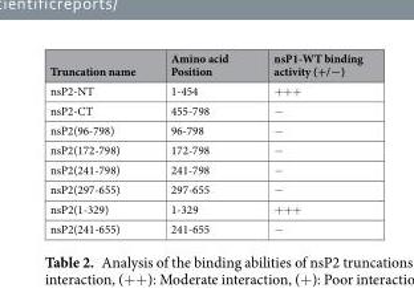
<table><thead><tr><td>Truncation name</td><td>Amino acid Position</td><td>nsP1-WT binding activity (+/−)</td></tr></thead><tbody><tr><td>nsP2-NT</td><td>1-454</td><td>+++</td></tr><tr><td>nsP2-CT</td><td>455-798</td><td>−</td></tr><tr><td>nsP2(96-798)</td><td>96-798</td><td>−</td></tr><tr><td>nsP2(172-798)</td><td>172-798</td><td>−</td></tr><tr><td>nsP2(241-798)</td><td>241-798</td><td>−</td></tr><tr><td>nsP2(297-655)</td><td>297-655</td><td>−</td></tr><tr><td>nsP2(1-329)</td><td>1-329</td><td>+++</td></tr><tr><td>nsP2(241-655)</td><td>241-655</td><td>−</td></tr></tbody></table>